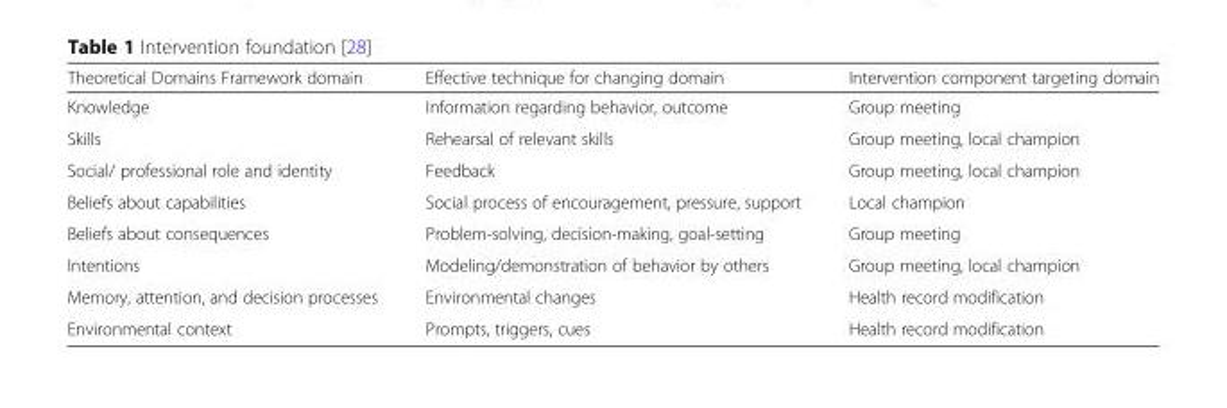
<table><thead><tr><td>Theoretical Domains Framework domain</td><td>Effective technique for changing domain</td><td>Intervention component targeting domain</td></tr></thead><tbody><tr><td>Knowledge</td><td>Information regarding behavior, outcome</td><td>Group meeting</td></tr><tr><td>Skills</td><td>Rehearsal of relevant skills</td><td>Group meeting, local champion</td></tr><tr><td>Social/ professional role and identity</td><td>Feedback</td><td>Group meeting, local champion</td></tr><tr><td>Beliefs about capabilities</td><td>Social process of encouragement, pressure, support</td><td>Local champion</td></tr><tr><td>Beliefs about consequences</td><td>Problem-solving, decision-making, goal-setting</td><td>Group meeting</td></tr><tr><td>Intentions</td><td>Modeling/demonstration of behavior by others</td><td>Group meeting, local champion</td></tr><tr><td>Memory, attention, and decision processes</td><td>Environmental changes</td><td>Health record modification</td></tr><tr><td>Environmental context</td><td>Prompts, triggers, cues</td><td>Health record modification</td></tr></tbody></table>